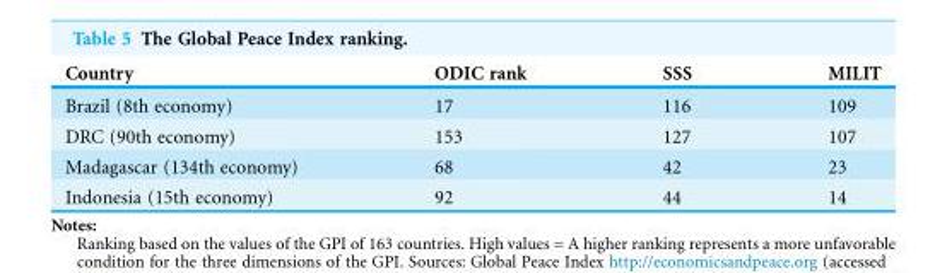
<table><thead><tr><td>Country</td><td>ODIC rank</td><td>SSS</td><td>MILIT</td></tr></thead><tbody><tr><td>Brazil (8th economy)</td><td>17</td><td>116</td><td>109</td></tr><tr><td>DRC (90th economy)</td><td>153</td><td>127</td><td>107</td></tr><tr><td>Madagascar (134th economy)</td><td>68</td><td>42</td><td>23</td></tr><tr><td>Indonesia (15th economy)</td><td>92</td><td>44</td><td>14</td></tr></tbody></table>